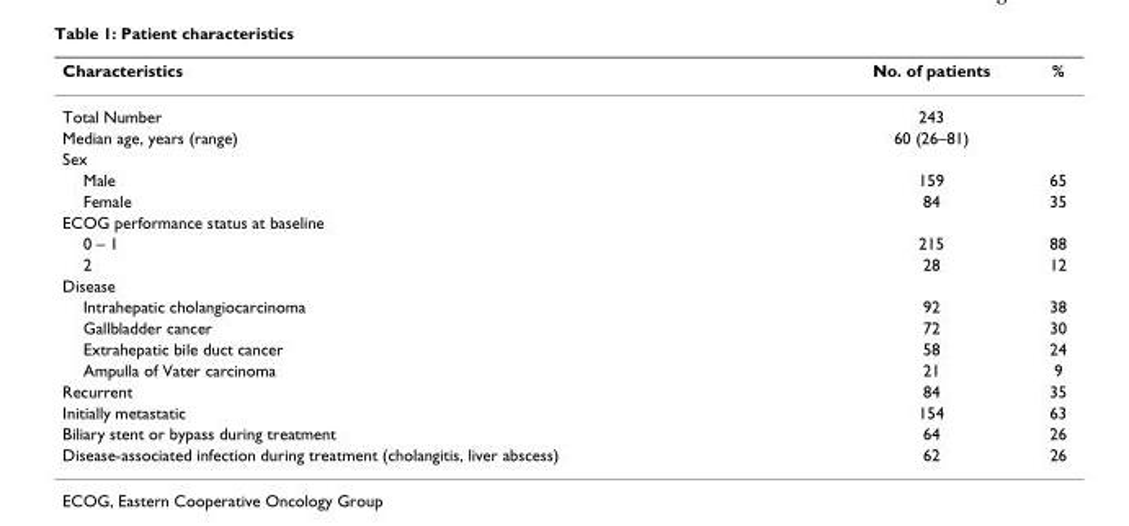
<table><thead><tr><td>Characteristics</td><td>No. of patients</td><td>%</td></tr></thead><tbody><tr><td>Total Number</td><td>243</td><td></td></tr><tr><td>Median age, years (range)</td><td>60 (26–81)</td><td></td></tr><tr><td colspan="3">Sex</td></tr><tr><td>Male</td><td>159</td><td>65</td></tr><tr><td>Female</td><td>84</td><td>35</td></tr><tr><td colspan="3">ECOG performance status at baseline</td></tr><tr><td>0 – 1</td><td>215</td><td>88</td></tr><tr><td>2</td><td>28</td><td>12</td></tr><tr><td colspan="3">Disease</td></tr><tr><td>Intrahepatic cholangiocarcinoma</td><td>92</td><td>38</td></tr><tr><td>Gallbladder cancer</td><td>72</td><td>30</td></tr><tr><td>Extrahepatic bile duct cancer</td><td>58</td><td>24</td></tr><tr><td>Ampulla of Vater carcinoma</td><td>21</td><td>9</td></tr><tr><td>Recurrent</td><td>84</td><td>35</td></tr><tr><td>Initially metastatic</td><td>154</td><td>63</td></tr><tr><td>Biliary stent or bypass during treatment</td><td>64</td><td>26</td></tr><tr><td>Disease-associated infection during treatment (cholangitis, liver abscess)</td><td>62</td><td>26</td></tr></tbody></table>